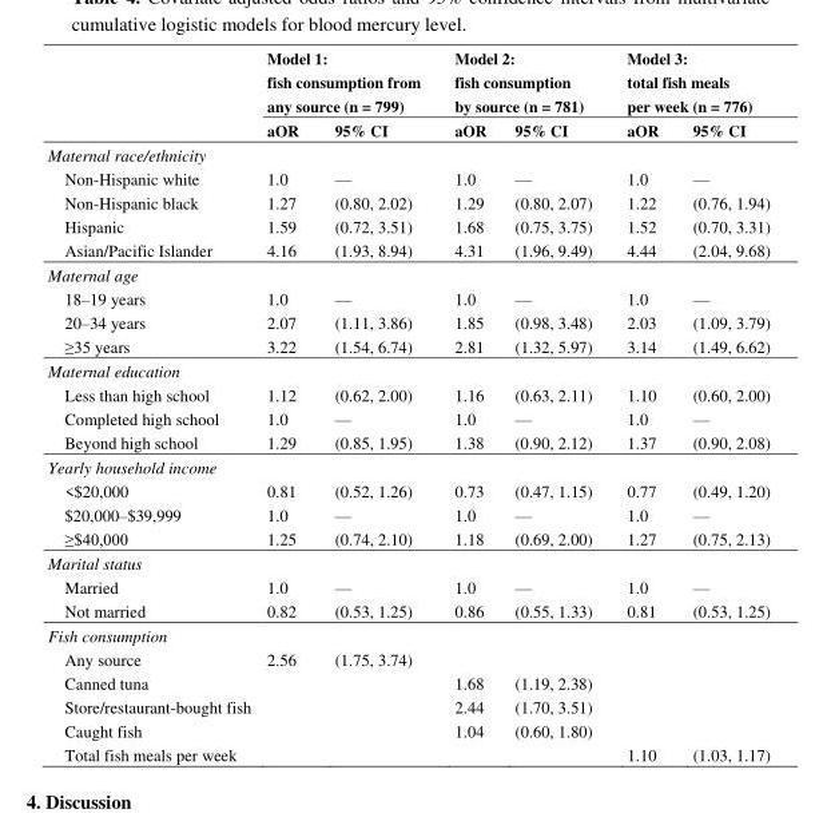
<table><thead><tr><td rowspan="2"></td><td colspan="2">Model 1: fish consumption from any source (n = 799)</td><td colspan="2">Model 2: fish consumption by source (n = 781)</td><td colspan="2">Model 3: total fish meals per week (n = 776)</td></tr><tr><td>aOR</td><td>95% CI</td><td>aOR</td><td>95% CI</td><td>aOR</td><td>95% CI</td></tr></thead><tbody><tr><td colspan="7">Maternal race/ethnicity</td></tr><tr><td>Non-Hispanic white</td><td>1.0</td><td>—</td><td>1.0</td><td>—</td><td>1.0</td><td>—</td></tr><tr><td>Non-Hispanic black</td><td>1.27</td><td>(0.80, 2.02)</td><td>1.29</td><td>(0.80, 2.07)</td><td>1.22</td><td>(0.76, 1.94)</td></tr><tr><td>Hispanic</td><td>1.59</td><td>(0.72, 3.51)</td><td>1.68</td><td>(0.75, 3.75)</td><td>1.52</td><td>(0.70, 3.31)</td></tr><tr><td>Asian/Pacific Islander</td><td>4.16</td><td>(1.93, 8.94)</td><td>4.31</td><td>(1.96, 9.49)</td><td>4.44</td><td>(2.04, 9.68)</td></tr><tr><td colspan="7">Maternal age</td></tr><tr><td>18–19 years</td><td>1.0</td><td>—</td><td>1.0</td><td>—</td><td>1.0</td><td>—</td></tr><tr><td>20–34 years</td><td>2.07</td><td>(1.11, 3.86)</td><td>1.85</td><td>(0.98, 3.48)</td><td>2.03</td><td>(1.09, 3.79)</td></tr><tr><td>≥35 years</td><td>3.22</td><td>(1.54, 6.74)</td><td>2.81</td><td>(1.32, 5.97)</td><td>3.14</td><td>(1.49, 6.62)</td></tr><tr><td colspan="7">Maternal education</td></tr><tr><td>Less than high school</td><td>1.12</td><td>(0.62, 2.00)</td><td>1.16</td><td>(0.63, 2.11)</td><td>1.10</td><td>(0.60, 2.00)</td></tr><tr><td>Completed high school</td><td>1.0</td><td>—</td><td>1.0</td><td>—</td><td>1.0</td><td>—</td></tr><tr><td>Beyond high school</td><td>1.29</td><td>(0.85, 1.95)</td><td>1.38</td><td>(0.90, 2.12)</td><td>1.37</td><td>(0.90, 2.08)</td></tr><tr><td colspan="7">Yearly household income</td></tr><tr><td>&lt;$20,000</td><td>0.81</td><td>(0.52, 1.26)</td><td>0.73</td><td>(0.47, 1.15)</td><td>0.77</td><td>(0.49, 1.20)</td></tr><tr><td>$20,000–$39,999</td><td>1.0</td><td>—</td><td>1.0</td><td>—</td><td>1.0</td><td>—</td></tr><tr><td>≥$40,000</td><td>1.25</td><td>(0.74, 2.10)</td><td>1.18</td><td>(0.69, 2.00)</td><td>1.27</td><td>(0.75, 2.13)</td></tr><tr><td colspan="7">Marital status</td></tr><tr><td>Married</td><td>1.0</td><td>—</td><td>1.0</td><td>—</td><td>1.0</td><td>—</td></tr><tr><td>Not married</td><td>0.82</td><td>(0.53, 1.25)</td><td>0.86</td><td>(0.55, 1.33)</td><td>0.81</td><td>(0.53, 1.25)</td></tr><tr><td colspan="7">Fish consumption</td></tr><tr><td>Any source</td><td>2.56</td><td>(1.75, 3.74)</td><td></td><td></td><td></td><td></td></tr><tr><td>Canned tuna</td><td></td><td></td><td>1.68</td><td>(1.19, 2.38)</td><td></td><td></td></tr><tr><td>Store/restaurant-bought fish</td><td></td><td></td><td>2.44</td><td>(1.70, 3.51)</td><td></td><td></td></tr><tr><td>Caught fish</td><td></td><td></td><td>1.04</td><td>(0.60, 1.80)</td><td></td><td></td></tr><tr><td>Total fish meals per week</td><td></td><td></td><td></td><td></td><td>1.10</td><td>(1.03, 1.17)</td></tr></tbody></table>